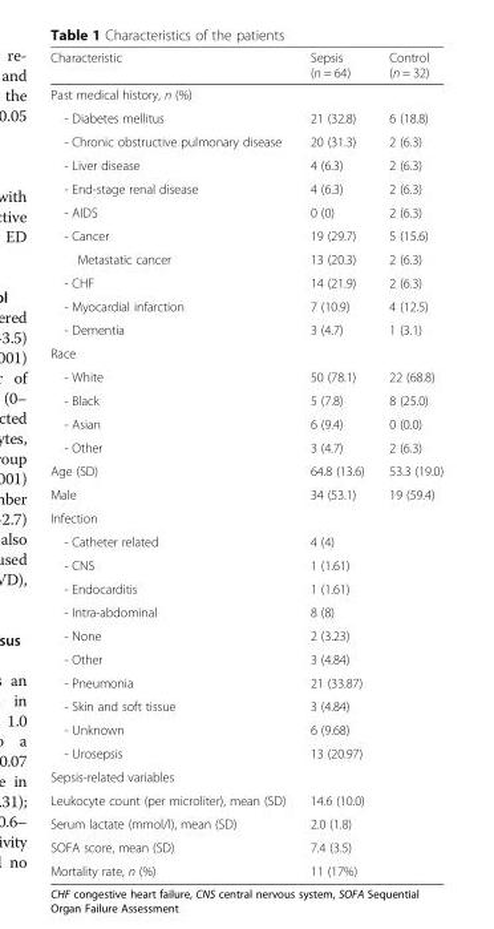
<table><thead><tr><td>Characteristic</td><td>Sepsis (n = 64)</td><td>Control (n = 32)</td></tr></thead><tbody><tr><td colspan="3">Past medical history, n (%)</td></tr><tr><td>- Diabetes mellitus</td><td>21 (32.8)</td><td>6 (18.8)</td></tr><tr><td>- Chronic obstructive pulmonary disease</td><td>20 (31.3)</td><td>2 (6.3)</td></tr><tr><td>- Liver disease</td><td>4 (6.3)</td><td>2 (6.3)</td></tr><tr><td>- End-stage renal disease</td><td>4 (6.3)</td><td>2 (6.3)</td></tr><tr><td>- AIDS</td><td>0 (0)</td><td>2 (6.3)</td></tr><tr><td>- Cancer</td><td>19 (29.7)</td><td>5 (15.6)</td></tr><tr><td>Metastatic cancer</td><td>13 (20.3)</td><td>2 (6.3)</td></tr><tr><td>- CHF</td><td>14 (21.9)</td><td>2 (6.3)</td></tr><tr><td>- Myocardial infarction</td><td>7 (10.9)</td><td>4 (12.5)</td></tr><tr><td>- Dementia</td><td>3 (4.7)</td><td>1 (3.1)</td></tr><tr><td colspan="3">Race</td></tr><tr><td>- White</td><td>50 (78.1)</td><td>22 (68.8)</td></tr><tr><td>- Black</td><td>5 (7.8)</td><td>8 (25.0)</td></tr><tr><td>- Asian</td><td>6 (9.4)</td><td>0 (0.0)</td></tr><tr><td>- Other</td><td>3 (4.7)</td><td>2 (6.3)</td></tr><tr><td>Age (SD)</td><td>64.8 (13.6)</td><td>53.3 (19.0)</td></tr><tr><td>Male</td><td>34 (53.1)</td><td>19 (59.4)</td></tr><tr><td colspan="3">Infection</td></tr><tr><td>- Catheter related</td><td>4 (4)</td><td></td></tr><tr><td>- CNS</td><td>1 (1.61)</td><td></td></tr><tr><td>- Endocarditis</td><td>1 (1.61)</td><td></td></tr><tr><td>- Intra-abdominal</td><td>8 (8)</td><td></td></tr><tr><td>- None</td><td>2 (3.23)</td><td></td></tr><tr><td>- Other</td><td>3 (4.84)</td><td></td></tr><tr><td>- Pneumonia</td><td>21 (33.87)</td><td></td></tr><tr><td>- Skin and soft tissue</td><td>3 (4.84)</td><td></td></tr><tr><td>- Unknown</td><td>6 (9.68)</td><td></td></tr><tr><td>- Urosepsis</td><td>13 (20.97)</td><td></td></tr><tr><td colspan="3">Sepsis-related variables</td></tr><tr><td>Leukocyte count (per microliter), mean (SD)</td><td>14.6 (10.0)</td><td></td></tr><tr><td>Serum lactate (mmol/l), mean (SD)</td><td>2.0 (1.8)</td><td></td></tr><tr><td>SOFA score, mean (SD)</td><td>7.4 (3.5)</td><td></td></tr><tr><td>Mortality rate, n (%)</td><td>11 (17%)</td><td></td></tr></tbody></table>